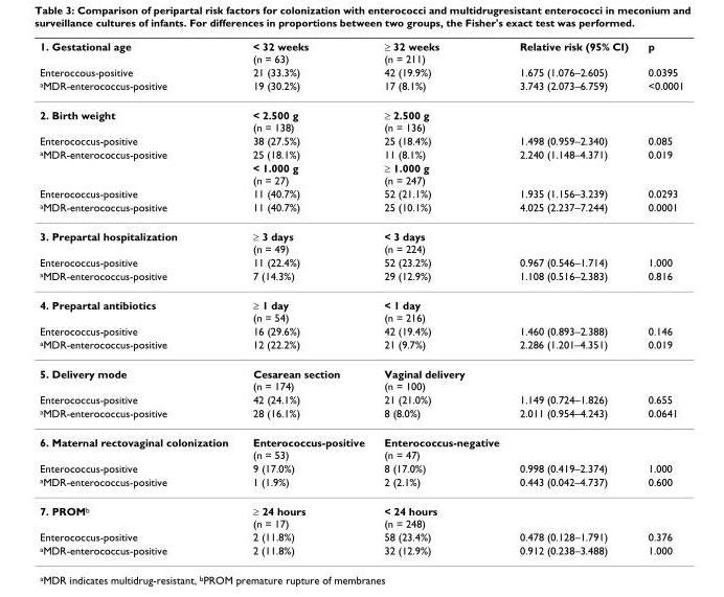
<table><thead><tr><td rowspan="3">1. Gestational age Enteroccous-positive <sup>a</sup>MDR-enterococcus-positive</td><td rowspan="3">&lt; 32 weeks (n = 63) 21 (33.3%) 19 (30.2%)</td><td rowspan="3">≥ 32 weeks (n = 211) 42 (19.9%) 17 (8.1%)</td><td rowspan="3">Relative risk (95% CI) 1.675 (1.076–2.605) 3.743 (2.073–6.759)</td><td rowspan="3">p 0.0395 &lt;0.0001</td></tr><tr></tr><tr></tr></thead><tbody><tr><td>2. Birth weight</td><td>&lt; 2.500 g (n = 138)</td><td>≥ 2.500 g (n = 136)</td><td></td><td></td></tr><tr><td>Enterococcus-positive</td><td>38 (27.5%)</td><td>25 (18.4%)</td><td>1.498 (0.959–2.340)</td><td>0.085</td></tr><tr><td rowspan="2"><sup>a</sup>MDR-enterococcus-positive</td><td>25 (18.1%)</td><td>11 (8.1%)</td><td>2.240 (1.148–4.371)</td><td>0.019</td></tr><tr><td>&lt; 1.000 g (n = 27)</td><td>≥ 1.000 g (n = 247)</td><td></td><td></td></tr><tr><td>Enterococcus-positive</td><td>11 (40.7%)</td><td>52 (21.1%)</td><td>1.935 (1.156–3.239)</td><td>0.0293</td></tr><tr><td><sup>a</sup>MDR-enterococcus-positive</td><td>11 (40.7%)</td><td>25 (10.1%)</td><td>4.025 (2.237–7.244)</td><td>0.0001</td></tr><tr><td>3. Prepartal hospitalization</td><td>≥ 3 days (n = 49)</td><td>&lt; 3 days (n = 224)</td><td></td><td></td></tr><tr><td>Enterococcus-positive</td><td>11 (22.4%)</td><td>52 (23.2%)</td><td>0.967 (0.546–1.714)</td><td>1.000</td></tr><tr><td><sup>a</sup>MDR-enterococcus-positive</td><td>7 (14.3%)</td><td>29 (12.9%)</td><td>1.108 (0.516–2.383)</td><td>0.816</td></tr><tr><td>4. Prepartal antibiotics</td><td>≥ 1 day (n = 54)</td><td>&lt; 1 day (n = 216)</td><td></td><td></td></tr><tr><td>Enterococcus-positive</td><td>16 (29.6%)</td><td>42 (19.4%)</td><td>1.460 (0.893–2.388)</td><td>0.146</td></tr><tr><td><sup>a</sup>MDR-enterococcus-positive</td><td>12 (22.2%)</td><td>21 (9.7%)</td><td>2.286 (1.201–4.351)</td><td>0.019</td></tr><tr><td>5. Delivery mode</td><td>Cesarean section (n = 174)</td><td>Vaginal delivery (n = 100)</td><td></td><td></td></tr><tr><td>Enterococcus-positive</td><td>42 (24.1%)</td><td>21 (21.0%)</td><td>1.149 (0.724–1.826)</td><td>0.655</td></tr><tr><td><sup>a</sup>MDR-enterococcus-positive</td><td>28 (16.1%)</td><td>8 (8.0%)</td><td>2.011 (0.954–4.243)</td><td>0.0641</td></tr><tr><td>6. Maternal rectovaginal colonization</td><td>Enterococcus-positive (n = 53)</td><td>Enterococcus-negative (n = 47)</td><td></td><td></td></tr><tr><td>Enterococcus-positive</td><td>9 (17.0%)</td><td>8 (17.0%)</td><td>0.998 (0.419–2.374)</td><td>1.000</td></tr><tr><td><sup>a</sup>MDR-enterococcus-positive</td><td>1 (1.9%)</td><td>2 (2.1%)</td><td>0.443 (0.042–4.737)</td><td>0.600</td></tr><tr><td>7. PROM<sup>b</sup></td><td>≥ 24 hours (n = 17)</td><td>&lt; 24 hours (n = 248)</td><td></td><td></td></tr><tr><td>Enterococcus-positive</td><td>2 (11.8%)</td><td>58 (23.4%)</td><td>0.478 (0.128–1.791)</td><td>0.376</td></tr><tr><td><sup>a</sup>MDR-enterococcus-positive</td><td>2 (11.8%)</td><td>32 (12.9%)</td><td>0.912 (0.238–3.488)</td><td>1.000</td></tr></tbody></table>